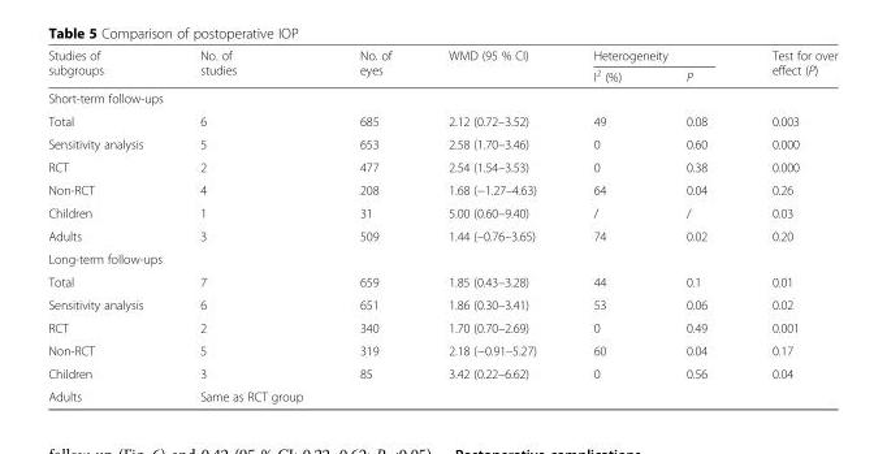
<table><thead><tr><td rowspan="2">Studies of subgroups</td><td rowspan="2">No. of studies</td><td rowspan="2">No. of eyes</td><td rowspan="2">WMD (95 % CI)</td><td colspan="2">Heterogeneity</td><td rowspan="2">Test for over effect (P)</td></tr><tr><td>I<sup>2</sup> (%)</td><td>P</td></tr></thead><tbody><tr><td colspan="7">Short-term follow-ups</td></tr><tr><td>Total</td><td>6</td><td>685</td><td>2.12 (0.72–3.52)</td><td>49</td><td>0.08</td><td>0.003</td></tr><tr><td>Sensitivity analysis</td><td>5</td><td>653</td><td>2.58 (1.70–3.46)</td><td>0</td><td>0.60</td><td>0.000</td></tr><tr><td>RCT</td><td>2</td><td>477</td><td>2.54 (1.54–3.53)</td><td>0</td><td>0.38</td><td>0.000</td></tr><tr><td>Non-RCT</td><td>4</td><td>208</td><td>1.68 (−1.27–4.63)</td><td>64</td><td>0.04</td><td>0.26</td></tr><tr><td>Children</td><td>1</td><td>31</td><td>5.00 (0.60–9.40)</td><td>/</td><td>/</td><td>0.03</td></tr><tr><td>Adults</td><td>3</td><td>509</td><td>1.44 (–0.76–3.65)</td><td>74</td><td>0.02</td><td>0.20</td></tr><tr><td colspan="7">Long-term follow-ups</td></tr><tr><td>Total</td><td>7</td><td>659</td><td>1.85 (0.43–3.28)</td><td>44</td><td>0.1</td><td>0.01</td></tr><tr><td>Sensitivity analysis</td><td>6</td><td>651</td><td>1.86 (0.30–3.41)</td><td>53</td><td>0.06</td><td>0.02</td></tr><tr><td>RCT</td><td>2</td><td>340</td><td>1.70 (0.70–2.69)</td><td>0</td><td>0.49</td><td>0.001</td></tr><tr><td>Non-RCT</td><td>5</td><td>319</td><td>2.18 (−0.91–5.27)</td><td>60</td><td>0.04</td><td>0.17</td></tr><tr><td>Children</td><td>3</td><td>85</td><td>3.42 (0.22–6.62)</td><td>0</td><td>0.56</td><td>0.04</td></tr><tr><td>Adults</td><td>Same as RCT group</td><td></td><td></td><td></td><td></td><td></td></tr></tbody></table>